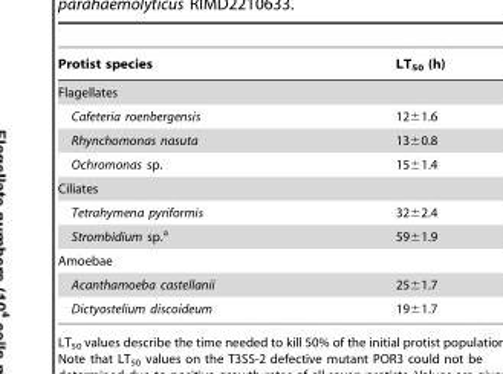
<table><thead><tr><td>Protist species</td><td>LT<sub>50</sub> (h)</td></tr></thead><tbody><tr><td colspan="2">Flagellates</td></tr><tr><td>Cafeteria roenbergensis</td><td>12±1.6</td></tr><tr><td>Rhynchomonas nasuta</td><td>13±0.8</td></tr><tr><td>Ochromonas sp.</td><td>15±1.4</td></tr><tr><td colspan="2">Ciliates</td></tr><tr><td>Tetrahymena pyriformis</td><td>32±2.4</td></tr><tr><td>Strombidium sp.<sup>a</sup></td><td>59±1.9</td></tr><tr><td colspan="2">Amoebae</td></tr><tr><td>Acanthamoeba castellanii</td><td>25±1.7</td></tr><tr><td>Dictyostelium discoideum</td><td>19±1.7</td></tr></tbody></table>